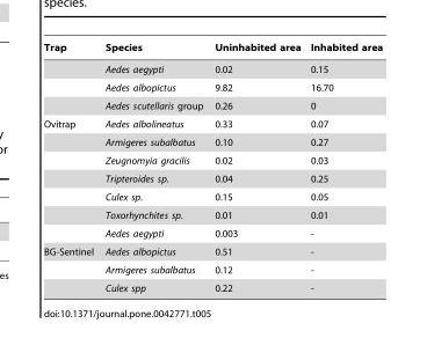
<table><thead><tr><td>Trap</td><td>Species</td><td>Uninhabited area</td><td>Inhabited area</td></tr></thead><tbody><tr><td></td><td>Aedes aegypti</td><td>0.02</td><td>0.15</td></tr><tr><td></td><td>Aedes albopictus</td><td>9.82</td><td>16.70</td></tr><tr><td></td><td>Aedes scutellaris group</td><td>0.26</td><td>0</td></tr><tr><td rowspan="7">Ovitrap</td><td>Aedes albolineatus</td><td>0.33</td><td>0.07</td></tr><tr><td>Armigeres subalbatus</td><td>0.10</td><td>0.27</td></tr><tr><td>Zeugnomyia gracilis</td><td>0.02</td><td>0.03</td></tr><tr><td>Tripteroides sp.</td><td>0.04</td><td>0.25</td></tr><tr><td>Culex sp.</td><td>0.15</td><td>0.05</td></tr><tr><td>Toxorhynchites sp.</td><td>0.01</td><td>0.01</td></tr><tr><td>Aedes aegypti</td><td>0.003</td><td>-</td></tr><tr><td rowspan="3">BG-Sentinel</td><td>Aedes albopictus</td><td>0.51</td><td>-</td></tr><tr><td>Armigeres subalbatus</td><td>0.12</td><td>-</td></tr><tr><td>Culex spp</td><td>0.22</td><td>-</td></tr></tbody></table>